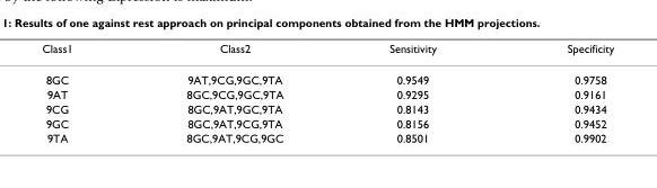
<table><thead><tr><td>Class1</td><td>Class2</td><td>Sensitivity</td><td>Specificity</td></tr></thead><tbody><tr><td>8GC</td><td>9AT,9CG,9GC,9TA</td><td>0.9549</td><td>0.9758</td></tr><tr><td>9AT</td><td>8GC,9CG,9GC,9TA</td><td>0.9295</td><td>0.9161</td></tr><tr><td>9CG</td><td>8GC,9AT,9GC,9TA</td><td>0.8143</td><td>0.9434</td></tr><tr><td>9GC</td><td>8GC,9AT,9CG,9TA</td><td>0.8156</td><td>0.9452</td></tr><tr><td>9TA</td><td>8GC,9AT,9CG,9GC</td><td>0.8501</td><td>0.9902</td></tr></tbody></table>